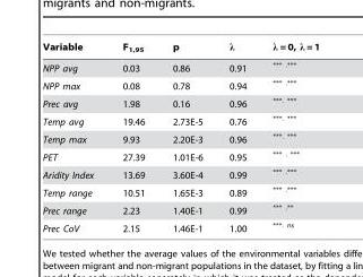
<table><thead><tr><td>Variable</td><td>F<sub>1,95</sub></td><td>p</td><td>λ</td><td>λ = 0, λ = 1</td></tr></thead><tbody><tr><td>NPP avg</td><td>0.03</td><td>0.86</td><td>0.91</td><td><sup>*** .***</sup></td></tr><tr><td>NPP max</td><td>0.08</td><td>0.78</td><td>0.94</td><td><sup>*** .***</sup></td></tr><tr><td>Prec avg</td><td>1.98</td><td>0.16</td><td>0.96</td><td><sup>***. ***</sup></td></tr><tr><td>Temp avg</td><td>19.46</td><td>2.73E-5</td><td>0.76</td><td><sup>***. ***</sup></td></tr><tr><td>Temp max</td><td>9.93</td><td>2.20E-3</td><td>0.96</td><td><sup>***. ***</sup></td></tr><tr><td>PET</td><td>27.39</td><td>1.01E-6</td><td>0.95</td><td><sup>*** . ***</sup></td></tr><tr><td>Aridity Index</td><td>13.69</td><td>3.60E-4</td><td>0.99</td><td><sup>*** .***</sup></td></tr><tr><td>Temp range</td><td>10.51</td><td>1.65E-3</td><td>0.89</td><td><sup>*** .***</sup></td></tr><tr><td>Prec range</td><td>2.23</td><td>1.40E-1</td><td>0.99</td><td><sup>*** .**</sup></td></tr><tr><td>Prec CoV</td><td>2.15</td><td>1.46E-1</td><td>1.00</td><td><sup>***. ns</sup></td></tr></tbody></table>